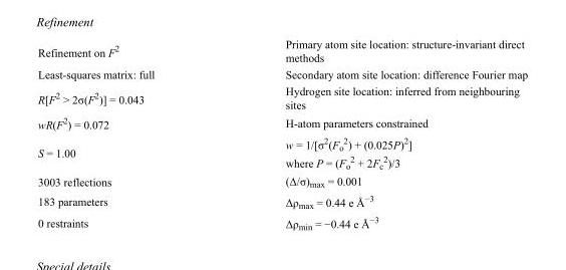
<table><tbody><tr><td>Refinement on F<sup>2</sup></td><td>Primary atom site location: structure-invariant direct methods</td></tr><tr><td>Least-squares matrix: full</td><td>Secondary atom site location: difference Fourier map</td></tr><tr><td>R[F<sup>2</sup> &gt; 2σ(F<sup>2</sup>)] = 0.043</td><td>Hydrogen site location: inferred from neighbouring sites</td></tr><tr><td>wR(F<sup>2</sup>) = 0.072</td><td>H-atom parameters constrained</td></tr><tr><td>S = 1.00</td><td>w = 1/[σ<sup>2</sup>(F<sub>o</sub> <sup>2</sup>) + (0.025P)<sup>2</sup>] where P = (F<sub>o</sub> <sup>2</sup> + 2F<sub>c</sub> <sup>2</sup>)/3</td></tr><tr><td>3003 reflections</td><td>(Δ/σ)<sub>max</sub> = 0.001</td></tr><tr><td>183 parameters</td><td>Δρ<sub>max</sub> = 0.44 e Å<sup>−3</sup></td></tr><tr><td>0 restraints</td><td>Δρ<sub>min</sub> = −0.44 e Å<sup>−3</sup></td></tr></tbody></table>